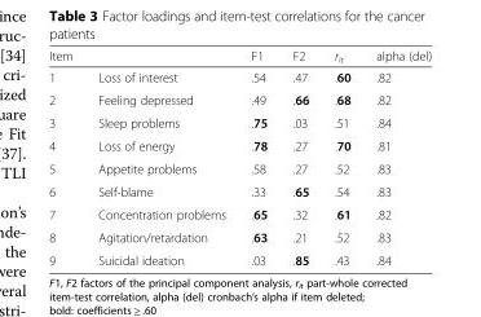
<table><thead><tr><td>Item</td><td></td><td>F1</td><td>F2</td><td>r<sub>it</sub></td><td>alpha (del)</td></tr></thead><tbody><tr><td>1</td><td>Loss of interest</td><td>.54</td><td>.47</td><td>.60</td><td>.82</td></tr><tr><td>2</td><td>Feeling depressed</td><td>.49</td><td>.66</td><td>.68</td><td>.82</td></tr><tr><td>3</td><td>Sleep problems</td><td>.75</td><td>.03</td><td>.51</td><td>.84</td></tr><tr><td>4</td><td>Loss of energy</td><td>.78</td><td>.27</td><td>.70</td><td>.81</td></tr><tr><td>5</td><td>Appetite problems</td><td>.58</td><td>.27</td><td>.52</td><td>.83</td></tr><tr><td>6</td><td>Self-blame</td><td>.33</td><td>.65</td><td>.54</td><td>.83</td></tr><tr><td>7</td><td>Concentration problems</td><td>.65</td><td>.32</td><td>.61</td><td>.82</td></tr><tr><td>8</td><td>Agitation/retardation</td><td>.63</td><td>.21</td><td>.52</td><td>.83</td></tr><tr><td>9</td><td>Suicidal ideation</td><td>.03</td><td>.85</td><td>.43</td><td>.84</td></tr></tbody></table>